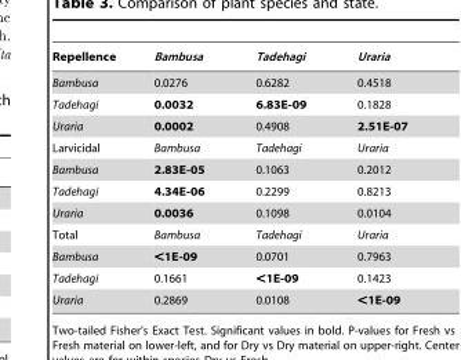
<table><thead><tr><td>Repellence</td><td>Bambusa</td><td>Tadehagi</td><td>Uraria</td></tr></thead><tbody><tr><td>Bambusa</td><td>0.0276</td><td>0.6282</td><td>0.4518</td></tr><tr><td>Tadehagi</td><td>0.0032</td><td>6.83E-09</td><td>0.1828</td></tr><tr><td>Uraria</td><td>0.0002</td><td>0.4908</td><td>2.51E-07</td></tr><tr><td>Larvicidal</td><td>Bambusa</td><td>Tadehagi</td><td>Uraria</td></tr><tr><td>Bambusa</td><td>2.83E-05</td><td>0.1063</td><td>0.2012</td></tr><tr><td>Tadehagi</td><td>4.34E-06</td><td>0.2299</td><td>0.8213</td></tr><tr><td>Uraria</td><td>0.0036</td><td>0.1098</td><td>0.0104</td></tr><tr><td>Total</td><td>Bambusa</td><td>Tadehagi</td><td>Uraria</td></tr><tr><td>Bambusa</td><td>&lt;1E-09</td><td>0.0701</td><td>0.7963</td></tr><tr><td>Tadehagi</td><td>0.1661</td><td>&lt;1E-09</td><td>0.1423</td></tr><tr><td>Uraria</td><td>0.2869</td><td>0.0108</td><td>&lt;1E-09</td></tr></tbody></table>